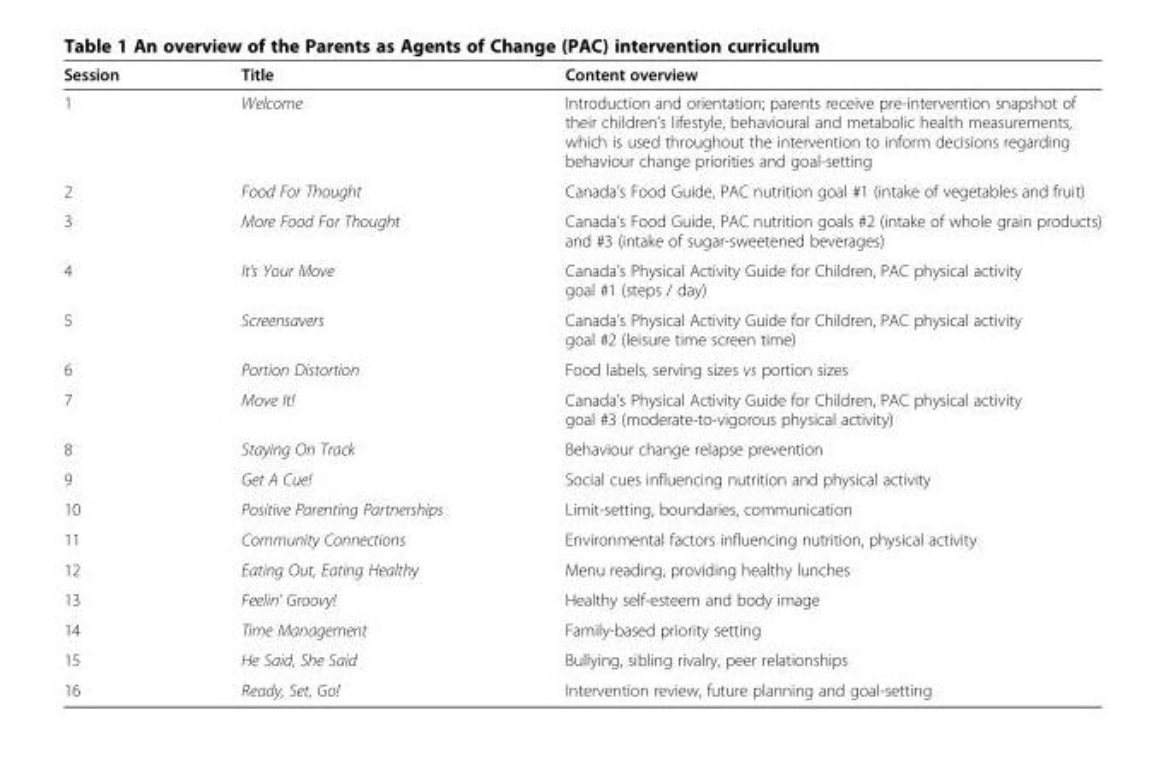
<table><thead><tr><td>Session</td><td>Title</td><td>Content overview</td></tr></thead><tbody><tr><td>1</td><td>Welcome</td><td>Introduction and orientation; parents receive pre-intervention snapshot of their children’s lifestyle, behavioural and metabolic health measurements, which is used throughout the intervention to inform decisions regarding behaviour change priorities and goal-setting</td></tr><tr><td>2</td><td>Food For Thought</td><td>Canada’s Food Guide, PAC nutrition goal #1 (intake of vegetables and fruit)</td></tr><tr><td>3</td><td>More Food For Thought</td><td>Canada’s Food Guide, PAC nutrition goals #2 (intake of whole grain products) and #3 (intake of sugar-sweetened beverages)</td></tr><tr><td>4</td><td>It’s Your Move</td><td>Canada’s Physical Activity Guide for Children, PAC physical activity goal #1 (steps / day)</td></tr><tr><td>5</td><td>Screensavers</td><td>Canada’s Physical Activity Guide for Children, PAC physical activity goal #2 (leisure time screen time)</td></tr><tr><td>6</td><td>Portion Distortion</td><td>Food labels, serving sizes vs portion sizes</td></tr><tr><td>7</td><td>Move It!</td><td>Canada’s Physical Activity Guide for Children, PAC physical activity goal #3 (moderate-to-vigorous physical activity)</td></tr><tr><td>8</td><td>Staying On Track</td><td>Behaviour change relapse prevention</td></tr><tr><td>9</td><td>Get A Cue!</td><td>Social cues influencing nutrition and physical activity</td></tr><tr><td>10</td><td>Positive Parenting Partnerships</td><td>Limit-setting, boundaries, communication</td></tr><tr><td>11</td><td>Community Connections</td><td>Environmental factors influencing nutrition, physical activity</td></tr><tr><td>12</td><td>Eating Out, Eating Healthy</td><td>Menu reading, providing healthy lunches</td></tr><tr><td>13</td><td>Feelin’ Groovy!</td><td>Healthy self-esteem and body image</td></tr><tr><td>14</td><td>Time Management</td><td>Family-based priority setting</td></tr><tr><td>15</td><td>He Said, She Said</td><td>Bullying, sibling rivalry, peer relationships</td></tr><tr><td>16</td><td>Ready, Set, Go!</td><td>Intervention review, future planning and goal-setting</td></tr></tbody></table>